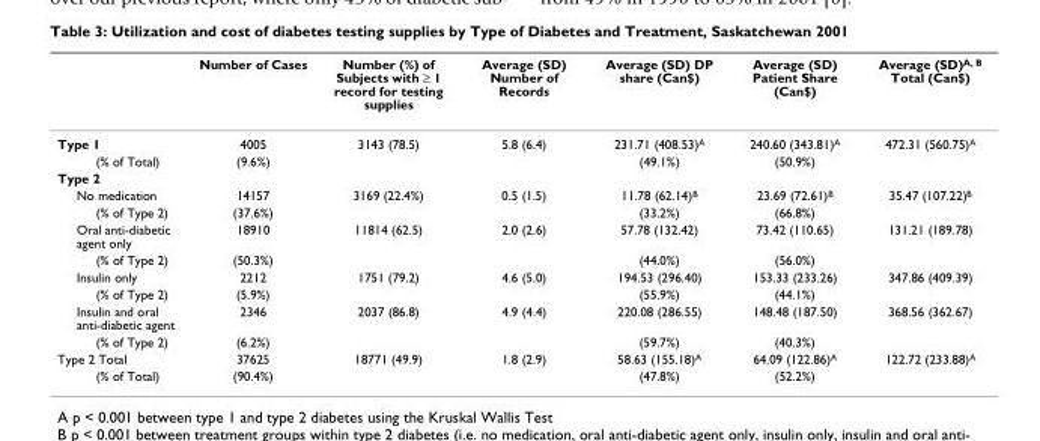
<table><thead><tr><td></td><td>Number of Cases</td><td>Number (%) of Subjects with ≥ 1 record for testing supplies</td><td>Average (SD) Number of Records</td><td>Average (SD) DP share (Can$)</td><td>Average (SD) Patient Share (Can$)</td><td>Average (SD)A, B Total (Can$)</td></tr></thead><tbody><tr><td>Type 1</td><td>4005</td><td>3143 (78.5)</td><td>5.8 (6.4)</td><td>231.71 (408.53)A</td><td>240.60 (343.81)A</td><td>472.31 (560.75)A</td></tr><tr><td>(% of Total)</td><td>(9.6%)</td><td></td><td></td><td>(49.1%)</td><td>(50.9%)</td><td></td></tr><tr><td colspan="7">Type 2</td></tr><tr><td>No medication</td><td>14157</td><td>3169 (22.4%)</td><td>0.5 (1.5)</td><td>11.78 (62.14)B</td><td>23.69 (72.61)B</td><td>35.47 (107.22)B</td></tr><tr><td>(% of Type 2)</td><td>(37.6%)</td><td></td><td></td><td>(33.2%)</td><td>(66.8%)</td><td></td></tr><tr><td>Oral anti-diabetic agent only</td><td>18910</td><td>11814 (62.5)</td><td>2.0 (2.6)</td><td>57.78 (132.42)</td><td>73.42 (110.65)</td><td>131.21 (189.78)</td></tr><tr><td>(% of Type 2)</td><td>(50.3%)</td><td></td><td></td><td>(44.0%)</td><td>(56.0%)</td><td></td></tr><tr><td>Insulin only</td><td>2212</td><td>1751 (79.2)</td><td>4.6 (5.0)</td><td>194.53 (296.40)</td><td>153.33 (233.26)</td><td>347.86 (409.39)</td></tr><tr><td>(% of Type 2)</td><td>(5.9%)</td><td></td><td></td><td>(55.9%)</td><td>(44.1%)</td><td></td></tr><tr><td>Insulin and oral anti-diabetic agent</td><td>2346</td><td>2037 (86.8)</td><td>4.9 (4.4)</td><td>220.08 (286.55)</td><td>148.48 (187.50)</td><td>368.56 (362.67)</td></tr><tr><td>(% of Type 2)</td><td>(6.2%)</td><td></td><td></td><td>(59.7%)</td><td>(40.3%)</td><td></td></tr><tr><td>Type 2 Total</td><td>37625</td><td>18771 (49.9)</td><td>1.8 (2.9)</td><td>58.63 (155.18)A</td><td>64.09 (122.86)A</td><td>122.72 (233.88)A</td></tr><tr><td>(% of Total)</td><td>(90.4%)</td><td></td><td></td><td>(47.8%)</td><td>(52.2%)</td><td></td></tr></tbody></table>